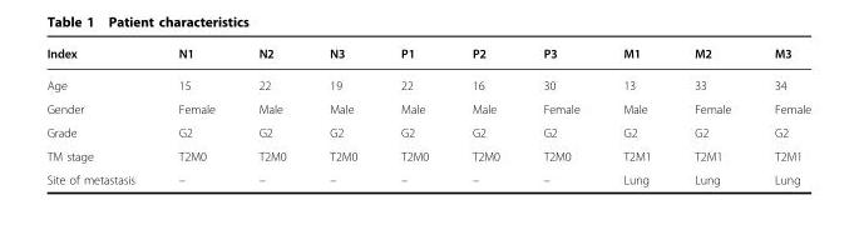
<table><thead><tr><td>Index</td><td>N1</td><td>N2</td><td>N3</td><td>P1</td><td>P2</td><td>P3</td><td>M1</td><td>M2</td><td>M3</td></tr></thead><tbody><tr><td>Age</td><td>15</td><td>22</td><td>19</td><td>22</td><td>16</td><td>30</td><td>13</td><td>33</td><td>34</td></tr><tr><td>Gender</td><td>Female</td><td>Male</td><td>Male</td><td>Male</td><td>Male</td><td>Female</td><td>Male</td><td>Female</td><td>Female</td></tr><tr><td>Grade</td><td>G2</td><td>G2</td><td>G2</td><td>G2</td><td>G2</td><td>G2</td><td>G2</td><td>G2</td><td>G2</td></tr><tr><td>TM stage</td><td>T2M0</td><td>T2M0</td><td>T2M0</td><td>T2M0</td><td>T2M0</td><td>T2M0</td><td>T2M1</td><td>T2M1</td><td>T2M1</td></tr><tr><td>Site of metastasis</td><td>–</td><td>–</td><td>–</td><td>–</td><td>–</td><td>–</td><td>Lung</td><td>Lung</td><td>Lung</td></tr></tbody></table>